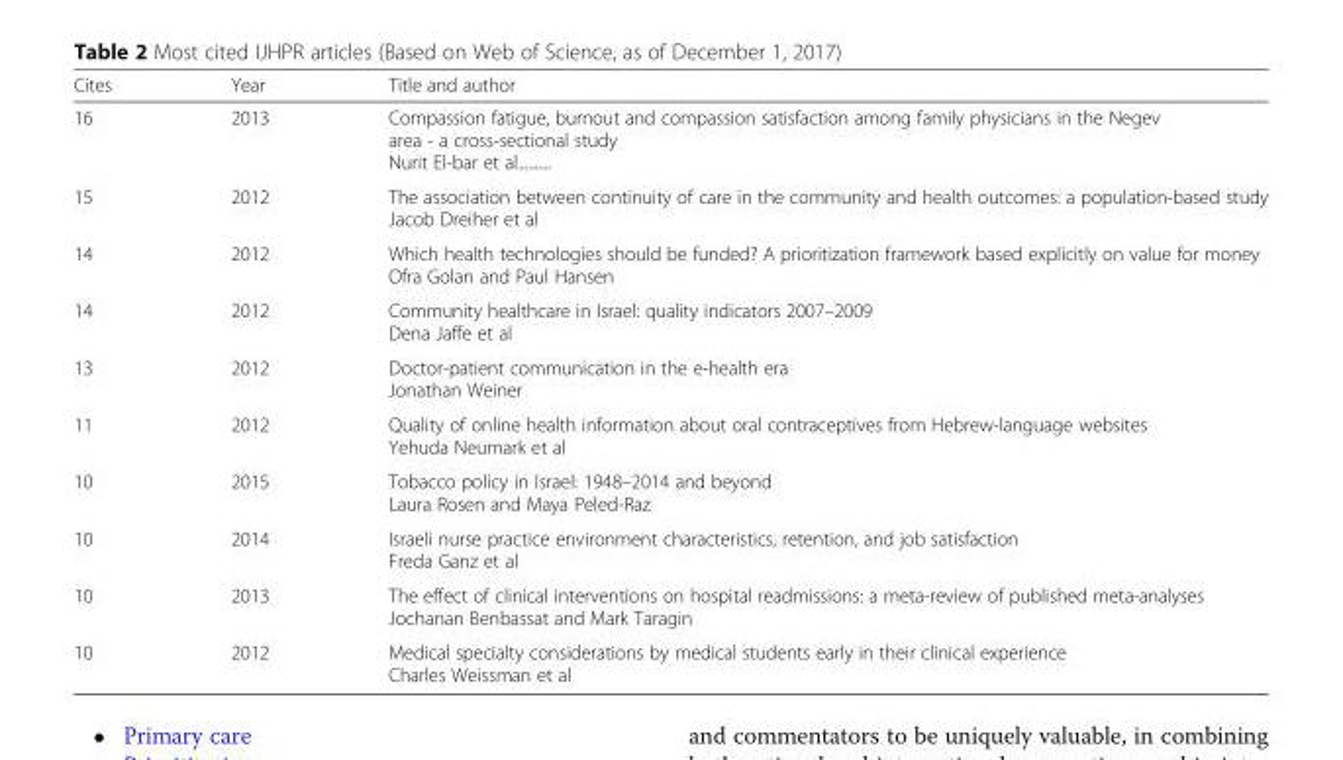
<table><thead><tr><td>Cites</td><td>Year</td><td>Title and author</td></tr></thead><tbody><tr><td>16</td><td>2013</td><td>Compassion fatigue, burnout and compassion satisfaction among family physicians in the Negev area - a cross-sectional study Nurit El-bar et al..........</td></tr><tr><td>15</td><td>2012</td><td>The association between continuity of care in the community and health outcomes: a population-based study Jacob Dreiher et al</td></tr><tr><td>14</td><td>2012</td><td>Which health technologies should be funded? A prioritization framework based explicitly on value for money Ofra Golan and Paul Hansen</td></tr><tr><td>14</td><td>2012</td><td>Community healthcare in Israel: quality indicators 2007–2009 Dena Jaffe et al</td></tr><tr><td>13</td><td>2012</td><td>Doctor-patient communication in the e-health era Jonathan Weiner</td></tr><tr><td>11</td><td>2012</td><td>Quality of online health information about oral contraceptives from Hebrew-language websites Yehuda Neumark et al</td></tr><tr><td>10</td><td>2015</td><td>Tobacco policy in Israel: 1948–2014 and beyond Laura Rosen and Maya Peled-Raz</td></tr><tr><td>10</td><td>2014</td><td>Israeli nurse practice environment characteristics, retention, and job satisfaction Freda Ganz et al</td></tr><tr><td>10</td><td>2013</td><td>The effect of clinical interventions on hospital readmissions: a meta-review of published meta-analyses Jochanan Benbassat and Mark Taragin</td></tr><tr><td>10</td><td>2012</td><td>Medical specialty considerations by medical students early in their clinical experience Charles Weissman et al</td></tr></tbody></table>